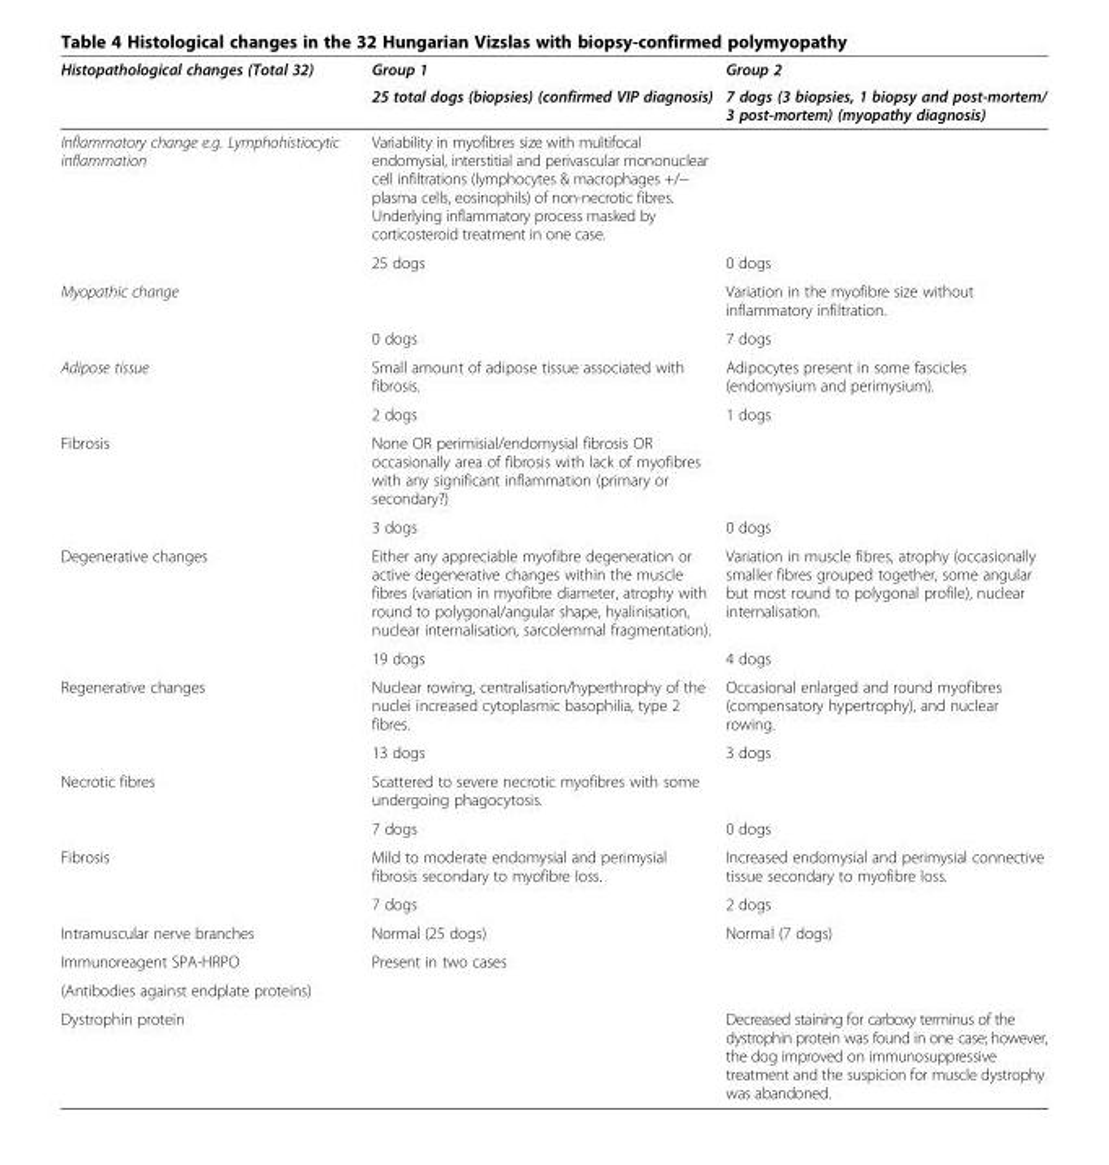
<table><thead><tr><td rowspan="2">Histopathological changes (Total 32)</td><td rowspan="2">Group 1 25 total dogs (biopsies) (confirmed VIP diagnosis)</td><td rowspan="2">Group 2 7 dogs (3 biopsies, 1 biopsy and post-mortem/ 3 post-mortem) (myopathy diagnosis)</td></tr><tr></tr></thead><tbody><tr><td rowspan="2">Inflammatory change e.g. Lymphohistiocytic inflammation</td><td>Variability in myofibres size with multifocal endomysial, interstitial and perivascular mononuclear cell infiltrations (lymphocytes &amp; macrophages +/− plasma cells, eosinophils) of non-necrotic fibres. Underlying inflammatory process masked by corticosteroid treatment in one case.</td><td></td></tr><tr><td>25 dogs</td><td>0 dogs</td></tr><tr><td rowspan="2">Myopathic change</td><td></td><td>Variation in the myofibre size without inflammatory infiltration.</td></tr><tr><td>0 dogs</td><td>7 dogs</td></tr><tr><td rowspan="2">Adipose tissue</td><td>Small amount of adipose tissue associated with fibrosis.</td><td>Adipocytes present in some fascicles (endomysium and perimysium).</td></tr><tr><td>2 dogs</td><td>1 dogs</td></tr><tr><td rowspan="2">Fibrosis</td><td>None OR perimisial/endomysial fibrosis OR occasionally area of fibrosis with lack of myofibres with any significant inflammation (primary or secondary?)</td><td></td></tr><tr><td>3 dogs</td><td>0 dogs</td></tr><tr><td rowspan="2">Degenerative changes</td><td>Either any appreciable myofibre degeneration or active degenerative changes within the muscle fibres (variation in myofibre diameter, atrophy with round to polygonal/angular shape, hyalinisation, nuclear internalisation, sarcolemmal fragmentation).</td><td>Variation in muscle fibres, atrophy (occasionally smaller fibres grouped together, some angular but most round to polygonal profile), nuclear internalisation.</td></tr><tr><td>19 dogs</td><td>4 dogs</td></tr><tr><td rowspan="2">Regenerative changes</td><td>Nuclear rowing, centralisation/hyperthrophy of the nuclei increased cytoplasmic basophilia, type 2 fibres.</td><td>Occasional enlarged and round myofibres (compensatory hypertrophy), and nuclear rowing.</td></tr><tr><td>13 dogs</td><td>3 dogs</td></tr><tr><td rowspan="2">Necrotic fibres</td><td>Scattered to severe necrotic myofibres with some undergoing phagocytosis.</td><td></td></tr><tr><td>7 dogs</td><td>0 dogs</td></tr><tr><td rowspan="2">Fibrosis</td><td>Mild to moderate endomysial and perimysial fibrosis secondary to myofibre loss.</td><td>Increased endomysial and perimysial connective tissue secondary to myofibre loss.</td></tr><tr><td>7 dogs</td><td>2 dogs</td></tr><tr><td>Intramuscular nerve branches</td><td>Normal (25 dogs)</td><td>Normal (7 dogs)</td></tr><tr><td>Immunoreagent SPA-HRPO</td><td rowspan="2">Present in two cases</td><td rowspan="2"></td></tr><tr><td>(Antibodies against endplate proteins)</td></tr><tr><td>Dystrophin protein</td><td></td><td>Decreased staining for carboxy terminus of the dystrophin protein was found in one case; however, the dog improved on immunosuppressive treatment and the suspicion for muscle dystrophy was abandoned.</td></tr></tbody></table>